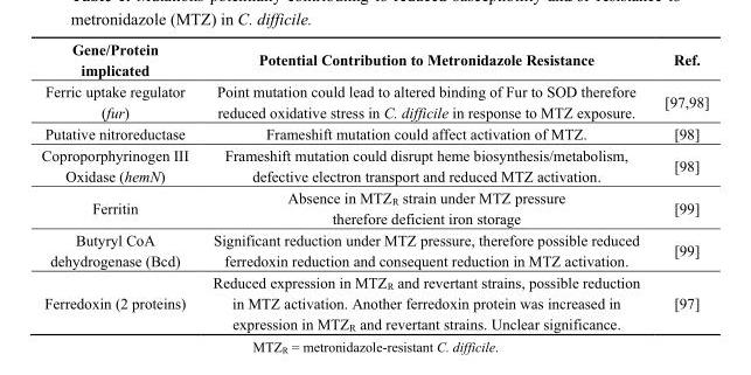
<table><thead><tr><td>Gene/Protein implicated</td><td>Potential Contribution to Metronidazole Resistance</td><td>Ref.</td></tr></thead><tbody><tr><td>Ferric uptake regulator (fur)</td><td>Point mutation could lead to altered binding of Fur to SOD therefore reduced oxidative stress in C. difficile in response to MTZ exposure.</td><td>[97,98]</td></tr><tr><td>Putative nitroreductase</td><td>Frameshift mutation could affect activation of MTZ.</td><td>[98]</td></tr><tr><td>Coproporphyrinogen III Oxidase (hemN)</td><td>Frameshift mutation could disrupt heme biosynthesis/metabolism, defective electron transport and reduced MTZ activation.</td><td>[98]</td></tr><tr><td>Ferritin</td><td>Absence in MTZ<sub>R</sub> strain under MTZ pressure therefore deficient iron storage</td><td>[99]</td></tr><tr><td>Butyryl CoA dehydrogenase (Bcd)</td><td>Significant reduction under MTZ pressure, therefore possible reduced ferredoxin reduction and consequent reduction in MTZ activation.</td><td>[99]</td></tr><tr><td>Ferredoxin (2 proteins)</td><td>Reduced expression in MTZ<sub>R</sub> and revertant strains, possible reduction in MTZ activation. Another ferredoxin protein was increased in expression in MTZ<sub>R</sub> and revertant strains. Unclear significance.</td><td>[97]</td></tr></tbody></table>